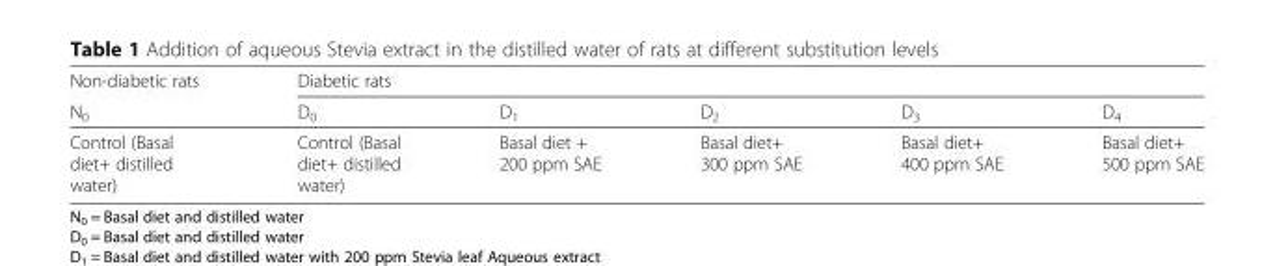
<table><thead><tr><td rowspan="2">Non-diabetic rats N<sub>0</sub></td><td colspan="5">Diabetic rats</td></tr><tr><td>D<sub>0</sub></td><td>D<sub>1</sub></td><td>D<sub>2</sub></td><td>D<sub>3</sub></td><td>D<sub>4</sub></td></tr></thead><tbody><tr><td>Control (Basal diet+ distilled water)</td><td>Control (Basal diet+ distilled water)</td><td>Basal diet + 200 ppm SAE</td><td>Basal diet+ 300 ppm SAE</td><td>Basal diet+ 400 ppm SAE</td><td>Basal diet+ 500 ppm SAE</td></tr></tbody></table>